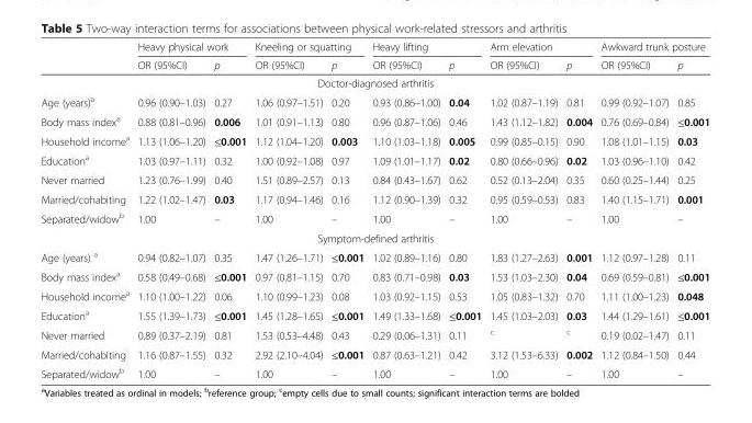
<table><thead><tr><td rowspan="2"></td><td colspan="2">Heavy physical work</td><td colspan="2">Kneeling or squatting</td><td colspan="2">Heavy lifting</td><td colspan="2">Arm elevation</td><td colspan="2">Awkward trunk posture</td></tr><tr><td>OR (95%CI)</td><td>p</td><td>OR (95%CI)</td><td>p</td><td>OR (95%CI)</td><td>p</td><td>OR (95%CI)</td><td>p</td><td>OR (95%CI)</td><td>p</td></tr></thead><tbody><tr><td colspan="11">Doctor-diagnosed arthritis</td></tr><tr><td>Age (years)<sup>a</sup></td><td>0.96 (0.90–1.03)</td><td>0.27</td><td>1.06 (0.97–1.51)</td><td>0.20</td><td>0.93 (0.86–1.00)</td><td>0.04</td><td>1.02 (0.87–1.19)</td><td>0.81</td><td>0.99 (0.92–1.07)</td><td>0.85</td></tr><tr><td>Body mass index<sup>a</sup></td><td>0.88 (0.81–0.96)</td><td>0.006</td><td>1.01 (0.91–1.13)</td><td>0.80</td><td>0.96 (0.87–1.06)</td><td>0.46</td><td>1.43 (1.12–1.82)</td><td>0.004</td><td>0.76 (0.69–0.84)</td><td>≤0.001</td></tr><tr><td>Household income<sup>a</sup></td><td>1.13 (1.06–1.20)</td><td>≤0.001</td><td>1.12 (1.04–1.20)</td><td>0.003</td><td>1.10 (1.03–1.18)</td><td>0.005</td><td>0.99 (0.85–0.15)</td><td>0.90</td><td>1.08 (1.01–1.15)</td><td>0.03</td></tr><tr><td>Education<sup>a</sup></td><td>1.03 (0.97–1.11)</td><td>0.32</td><td>1.00 (0.92–1.08)</td><td>0.97</td><td>1.09 (1.01–1.17)</td><td>0.02</td><td>0.80 (0.66–0.96)</td><td>0.02</td><td>1.03 (0.96–1.10)</td><td>0.42</td></tr><tr><td>Never married</td><td>1.23 (0.76–1.99)</td><td>0.40</td><td>1.51 (0.89–2.57)</td><td>0.13</td><td>0.84 (0.43–1.67)</td><td>0.62</td><td>0.52 (0.13–2.04)</td><td>0.35</td><td>0.60 (0.25–1.44)</td><td>0.25</td></tr><tr><td>Married/cohabiting</td><td>1.22 (1.02–1.47)</td><td>0.03</td><td>1.17 (0.94–1.46)</td><td>0.16</td><td>1.12 (0.90–1.39)</td><td>0.32</td><td>0.95 (0.59–0.53)</td><td>0.83</td><td>1.40 (1.15–1.71)</td><td>0.001</td></tr><tr><td>Separated/widow<sup>b</sup></td><td>1.00</td><td>–</td><td>1.00</td><td>–</td><td>1.00</td><td>–</td><td>1.00</td><td>–</td><td>1.00</td><td>–</td></tr><tr><td colspan="11">Symptom-defined arthritis</td></tr><tr><td>Age (years) <sup>a</sup></td><td>0.94 (0.82–1.07)</td><td>0.35</td><td>1.47 (1.26–1.71)</td><td>≤0.001</td><td>1.02 (0.89–1.16)</td><td>0.80</td><td>1.83 (1.27–2.63)</td><td>0.001</td><td>1.12 (0.97–1.28)</td><td>0.11</td></tr><tr><td>Body mass index<sup>a</sup></td><td>0.58 (0.49–0.68)</td><td>≤0.001</td><td>0.97 (0.81–1.15)</td><td>0.70</td><td>0.83 (0.71–0.98)</td><td>0.03</td><td>1.53 (1.03–2.30)</td><td>0.04</td><td>0.69 (0.59–0.81)</td><td>≤0.001</td></tr><tr><td>Household income<sup>a</sup></td><td>1.10 (1.00–1.22)</td><td>0.06</td><td>1.10 (0.99–1.23)</td><td>0.08</td><td>1.03 (0.92–1.15)</td><td>0.53</td><td>1.05 (0.83–1.32)</td><td>0.70</td><td>1.11 (1.00–1.23)</td><td>0.048</td></tr><tr><td>Education<sup>a</sup></td><td>1.55 (1.39–1.73)</td><td>≤0.001</td><td>1.45 (1.28–1.65)</td><td>≤0.001</td><td>1.49 (1.33–1.68)</td><td>≤0.001</td><td>1.45 (1.03–2.03)</td><td>0.03</td><td>1.44 (1.29–1.61)</td><td>≤0.001</td></tr><tr><td>Never married</td><td>0.89 (0.37–2.19)</td><td>0.81</td><td>1.53 (0.53–4.48)</td><td>0.43</td><td>0.29 (0.06–1.31)</td><td>0.11</td><td><sup>c</sup></td><td><sup>c</sup></td><td>0.19 (0.02–1.47)</td><td>0.11</td></tr><tr><td>Married/cohabiting</td><td>1.16 (0.87–1.55)</td><td>0.32</td><td>2.92 (2.10–4.04)</td><td>≤0.001</td><td>0.87 (0.63–1.21)</td><td>0.42</td><td>3.12 (1.53–6.33)</td><td>0.002</td><td>1.12 (0.84–1.50)</td><td>0.44</td></tr><tr><td>Separated/widow<sup>b</sup></td><td>1.00</td><td>–</td><td>1.00</td><td>–</td><td>1.00</td><td>–</td><td>1.00</td><td>–</td><td>1.00</td><td>–</td></tr></tbody></table>